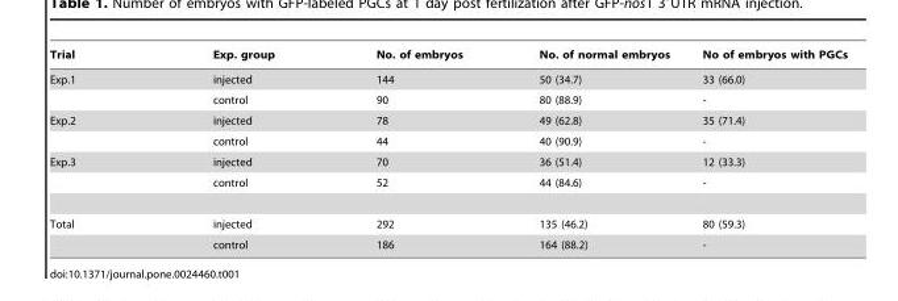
<table><thead><tr><td>Trial</td><td>Exp. group</td><td>No. of embryos</td><td>No. of normal embryos</td><td>No of embryos with PGCs</td></tr></thead><tbody><tr><td rowspan="2">Exp.1</td><td>injected</td><td>144</td><td>50 (34.7)</td><td>33 (66.0)</td></tr><tr><td>control</td><td>90</td><td>80 (88.9)</td><td>-</td></tr><tr><td rowspan="2">Exp.2</td><td>injected</td><td>78</td><td>49 (62.8)</td><td>35 (71.4)</td></tr><tr><td>control</td><td>44</td><td>40 (90.9)</td><td>-</td></tr><tr><td rowspan="2">Exp.3</td><td>injected</td><td>70</td><td>36 (51.4)</td><td>12 (33.3)</td></tr><tr><td>control</td><td>52</td><td>44 (84.6)</td><td>-</td></tr><tr><td rowspan="2">Total</td><td>injected</td><td>292</td><td>135 (46.2)</td><td>80 (59.3)</td></tr><tr><td>control</td><td>186</td><td>164 (88.2)</td><td>-</td></tr></tbody></table>